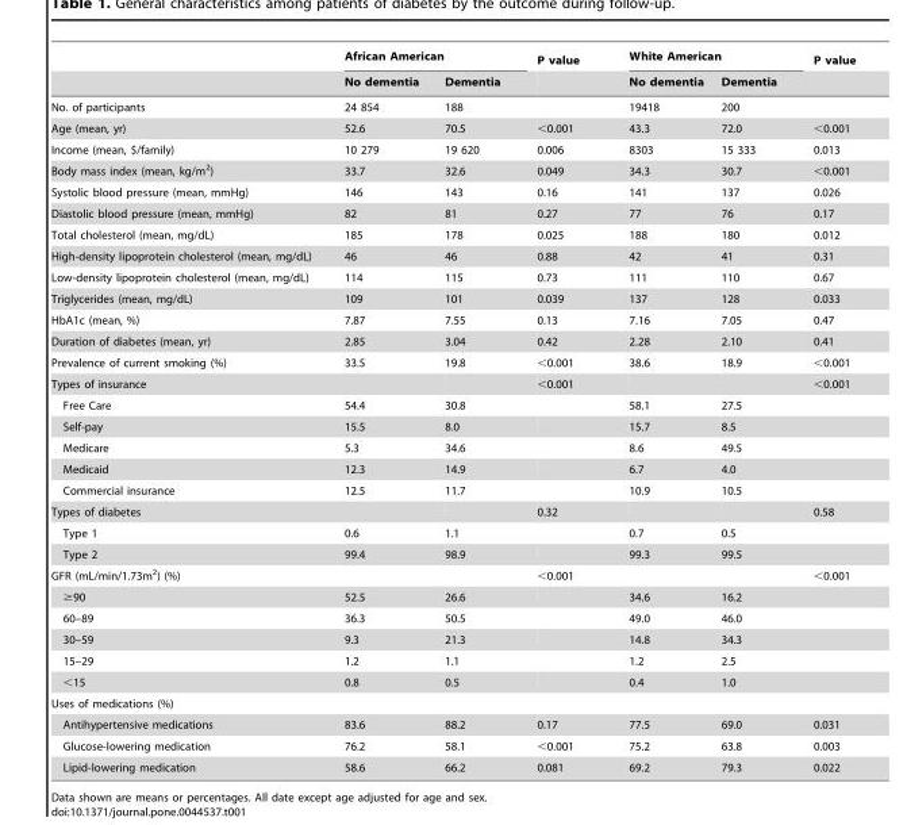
<table><thead><tr><td rowspan="2"></td><td colspan="2">African American</td><td rowspan="2">P value</td><td colspan="2">White American</td><td rowspan="2">P value</td></tr><tr><td>No dementia</td><td>Dementia</td><td>No dementia</td><td>Dementia</td></tr></thead><tbody><tr><td>No. of participants</td><td>24 854</td><td>188</td><td></td><td>19418</td><td>200</td><td></td></tr><tr><td>Age (mean, yr)</td><td>52.6</td><td>70.5</td><td>&lt;0.001</td><td>43.3</td><td>72.0</td><td>&lt;0.001</td></tr><tr><td>Income (mean, $/family)</td><td>10 279</td><td>19 620</td><td>0.006</td><td>8303</td><td>15 333</td><td>0.013</td></tr><tr><td>Body mass index (mean, kg/m<sup>2</sup>)</td><td>33.7</td><td>32.6</td><td>0.049</td><td>34.3</td><td>30.7</td><td>&lt;0.001</td></tr><tr><td>Systolic blood pressure (mean, mmHg)</td><td>146</td><td>143</td><td>0.16</td><td>141</td><td>137</td><td>0.026</td></tr><tr><td>Diastolic blood pressure (mean, mmHg)</td><td>82</td><td>81</td><td>0.27</td><td>77</td><td>76</td><td>0.17</td></tr><tr><td>Total cholesterol (mean, mg/dL)</td><td>185</td><td>178</td><td>0.025</td><td>188</td><td>180</td><td>0.012</td></tr><tr><td>High-density lipoprotein cholesterol (mean, mg/dL)</td><td>46</td><td>46</td><td>0.88</td><td>42</td><td>41</td><td>0.31</td></tr><tr><td>Low-density lipoprotein cholesterol (mean, mg/dL)</td><td>114</td><td>115</td><td>0.73</td><td>111</td><td>110</td><td>0.67</td></tr><tr><td>Triglycerides (mean, mg/dL)</td><td>109</td><td>101</td><td>0.039</td><td>137</td><td>128</td><td>0.033</td></tr><tr><td>HbA1c (mean, %)</td><td>7.87</td><td>7.55</td><td>0.13</td><td>7.16</td><td>7.05</td><td>0.47</td></tr><tr><td>Duration of diabetes (mean, yr)</td><td>2.85</td><td>3.04</td><td>0.42</td><td>2.28</td><td>2.10</td><td>0.41</td></tr><tr><td>Prevalence of current smoking (%)</td><td>33.5</td><td>19.8</td><td>&lt;0.001</td><td>38.6</td><td>18.9</td><td>&lt;0.001</td></tr><tr><td>Types of insurance</td><td></td><td></td><td>&lt;0.001</td><td></td><td></td><td>&lt;0.001</td></tr><tr><td>Free Care</td><td>54.4</td><td>30.8</td><td></td><td>58.1</td><td>27.5</td><td></td></tr><tr><td>Self-pay</td><td>15.5</td><td>8.0</td><td></td><td>15.7</td><td>8.5</td><td></td></tr><tr><td>Medicare</td><td>5.3</td><td>34.6</td><td></td><td>8.6</td><td>49.5</td><td></td></tr><tr><td>Medicaid</td><td>12.3</td><td>14.9</td><td></td><td>6.7</td><td>4.0</td><td></td></tr><tr><td>Commercial insurance</td><td>12.5</td><td>11.7</td><td></td><td>10.9</td><td>10.5</td><td></td></tr><tr><td>Types of diabetes</td><td></td><td></td><td>0.32</td><td></td><td></td><td>0.58</td></tr><tr><td>Type 1</td><td>0.6</td><td>1.1</td><td></td><td>0.7</td><td>0.5</td><td></td></tr><tr><td>Type 2</td><td>99.4</td><td>98.9</td><td></td><td>99.3</td><td>99.5</td><td></td></tr><tr><td>GFR (mL/min/1.73m<sup>2</sup>) (%)</td><td></td><td></td><td>&lt;0.001</td><td></td><td></td><td>&lt;0.001</td></tr><tr><td>≥90</td><td>52.5</td><td>26.6</td><td></td><td>34.6</td><td>16.2</td><td></td></tr><tr><td>60–89</td><td>36.3</td><td>50.5</td><td></td><td>49.0</td><td>46.0</td><td></td></tr><tr><td>30–59</td><td>9.3</td><td>21.3</td><td></td><td>14.8</td><td>34.3</td><td></td></tr><tr><td>15–29</td><td>1.2</td><td>1.1</td><td></td><td>1.2</td><td>2.5</td><td></td></tr><tr><td>&lt;15</td><td>0.8</td><td>0.5</td><td></td><td>0.4</td><td>1.0</td><td></td></tr><tr><td colspan="7">Uses of medications (%)</td></tr><tr><td>Antihypertensive medications</td><td>83.6</td><td>88.2</td><td>0.17</td><td>77.5</td><td>69.0</td><td>0.031</td></tr><tr><td>Glucose-lowering medication</td><td>76.2</td><td>58.1</td><td>&lt;0.001</td><td>75.2</td><td>63.8</td><td>0.003</td></tr><tr><td>Lipid-lowering medication</td><td>58.6</td><td>66.2</td><td>0.081</td><td>69.2</td><td>79.3</td><td>0.022</td></tr></tbody></table>